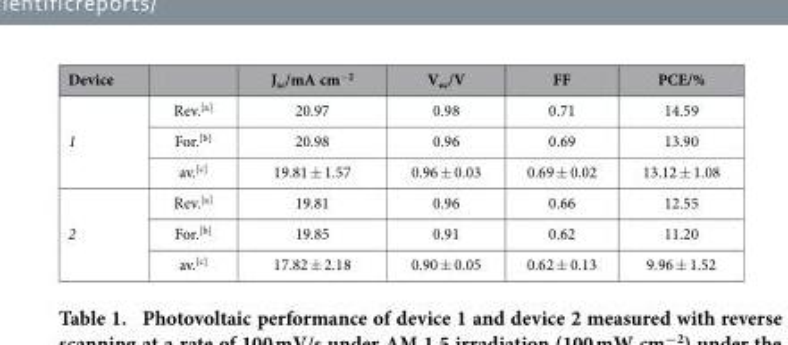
<table><thead><tr><td>Device</td><td></td><td>J<sub>sc</sub>/mA cm<sup>−2</sup></td><td>V<sub>oc</sub>/V</td><td>FF</td><td>PCE/%</td></tr></thead><tbody><tr><td rowspan="3">1</td><td>Rev.<sup>[a]</sup></td><td>20.97</td><td>0.98</td><td>0.71</td><td>14.59</td></tr><tr><td>For.<sup>[b]</sup></td><td>20.98</td><td>0.96</td><td>0.69</td><td>13.90</td></tr><tr><td>av.<sup>[c]</sup></td><td>19.81 ± 1.57</td><td>0.96 ± 0.03</td><td>0.69 ± 0.02</td><td>13.12 ± 1.08</td></tr><tr><td rowspan="3">2</td><td>Rev.<sup>[a]</sup></td><td>19.81</td><td>0.96</td><td>0.66</td><td>12.55</td></tr><tr><td>For.<sup>[b]</sup></td><td>19.85</td><td>0.91</td><td>0.62</td><td>11.20</td></tr><tr><td>av.<sup>[c]</sup></td><td>17.82 ± 2.18</td><td>0.90 ± 0.05</td><td>0.62 ± 0.13</td><td>9.96 ± 1.52</td></tr></tbody></table>